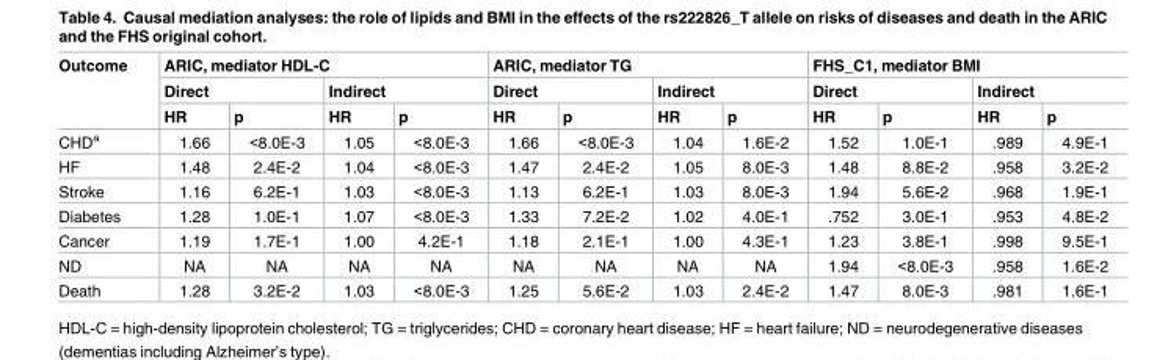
<table><thead><tr><td rowspan="3">Outcome</td><td colspan="4">ARIC, mediator HDL-C</td><td colspan="4">ARIC, mediator TG</td><td colspan="4">FHS_C1, mediator BMI</td></tr><tr><td colspan="2">Direct</td><td colspan="2">Indirect</td><td colspan="2">Direct</td><td colspan="2">Indirect</td><td colspan="2">Direct</td><td colspan="2">Indirect</td></tr><tr><td>HR</td><td>p</td><td>HR</td><td>p</td><td>HR</td><td>p</td><td>HR</td><td>p</td><td>HR</td><td>p</td><td>HR</td><td>p</td></tr></thead><tbody><tr><td>CHD<sup>a</sup></td><td>1.66</td><td>&lt;8.0E-3</td><td>1.05</td><td>&lt;8.0E-3</td><td>1.66</td><td>&lt;8.0E-3</td><td>1.04</td><td>1.6E-2</td><td>1.52</td><td>1.0E-1</td><td>.989</td><td>4.9E-1</td></tr><tr><td>HF</td><td>1.48</td><td>2.4E-2</td><td>1.04</td><td>&lt;8.0E-3</td><td>1.47</td><td>2.4E-2</td><td>1.05</td><td>8.0E-3</td><td>1.48</td><td>8.8E-2</td><td>.958</td><td>3.2E-2</td></tr><tr><td>Stroke</td><td>1.16</td><td>6.2E-1</td><td>1.03</td><td>&lt;8.0E-3</td><td>1.13</td><td>6.2E-1</td><td>1.03</td><td>8.0E-3</td><td>1.94</td><td>5.6E-2</td><td>.968</td><td>1.9E-1</td></tr><tr><td>Diabetes</td><td>1.28</td><td>1.0E-1</td><td>1.07</td><td>&lt;8.0E-3</td><td>1.33</td><td>7.2E-2</td><td>1.02</td><td>4.0E-1</td><td>.752</td><td>3.0E-1</td><td>.953</td><td>4.8E-2</td></tr><tr><td>Cancer</td><td>1.19</td><td>1.7E-1</td><td>1.00</td><td>4.2E-1</td><td>1.18</td><td>2.1E-1</td><td>1.00</td><td>4.3E-1</td><td>1.23</td><td>3.8E-1</td><td>.998</td><td>9.5E-1</td></tr><tr><td>ND</td><td>NA</td><td>NA</td><td>NA</td><td>NA</td><td>NA</td><td>NA</td><td>NA</td><td>NA</td><td>1.94</td><td>&lt;8.0E-3</td><td>.958</td><td>1.6E-2</td></tr><tr><td>Death</td><td>1.28</td><td>3.2E-2</td><td>1.03</td><td>&lt;8.0E-3</td><td>1.25</td><td>5.6E-2</td><td>1.03</td><td>2.4E-2</td><td>1.47</td><td>8.0E-3</td><td>.981</td><td>1.6E-1</td></tr></tbody></table>